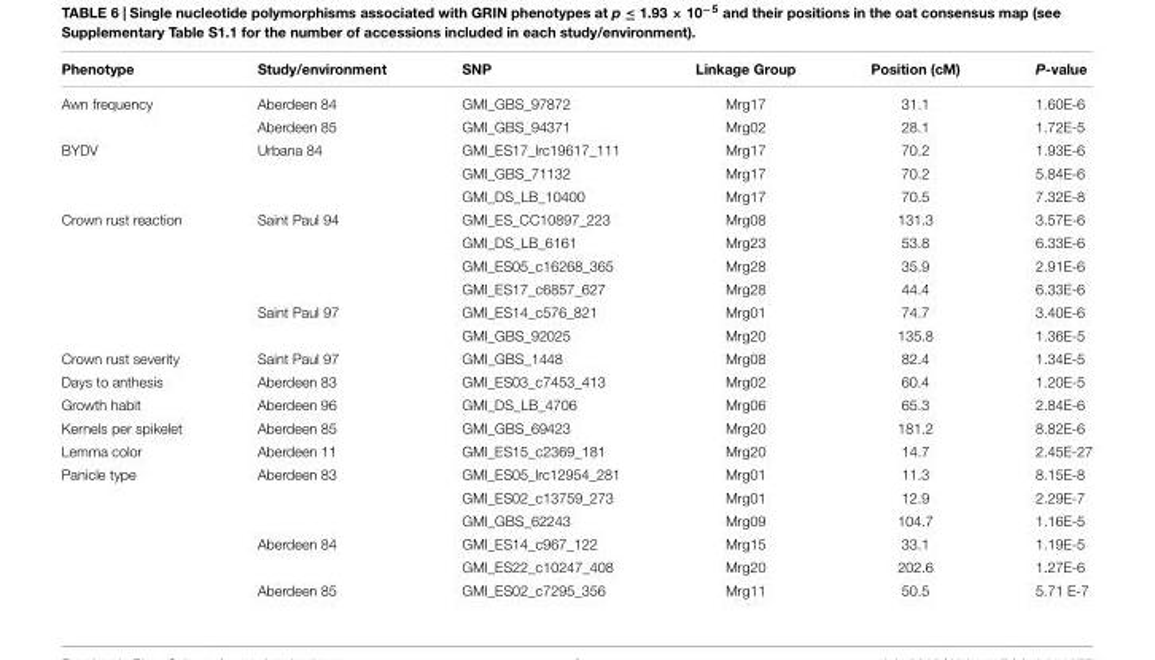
<table><thead><tr><td>Phenotype</td><td>Study/environment</td><td>SNP</td><td>Linkage Group</td><td>Position (cM)</td><td>P-value</td></tr></thead><tbody><tr><td rowspan="2">Awn frequency</td><td>Aberdeen 84</td><td>GMI_GBS_97872</td><td>Mrg17</td><td>31.1</td><td>1.60E-6</td></tr><tr><td>Aberdeen 85</td><td>GMI_GBS_94371</td><td>Mrg02</td><td>28.1</td><td>1.72E-5</td></tr><tr><td rowspan="3">BYDV</td><td>Urbana 84</td><td>GMI_ES17_lrc19617_111</td><td>Mrg17</td><td>70.2</td><td>1.93E-6</td></tr><tr><td></td><td>GMI_GBS_71132</td><td>Mrg17</td><td>70.2</td><td>5.84E-6</td></tr><tr><td></td><td>GMI_DS_LB_10400</td><td>Mrg17</td><td>70.5</td><td>7.32E-8</td></tr><tr><td rowspan="6">Crown rust reaction</td><td>Saint Paul 94</td><td>GMI_ES_CC10897_223</td><td>Mrg08</td><td>131.3</td><td>3.57E-6</td></tr><tr><td></td><td>GMI_DS_LB_6161</td><td>Mrg23</td><td>53.8</td><td>6.33E-6</td></tr><tr><td></td><td>GMI_ES05_c16268_365</td><td>Mrg28</td><td>35.9</td><td>2.91E-6</td></tr><tr><td></td><td>GMI_ES17_c6857_627</td><td>Mrg28</td><td>44.4</td><td>6.33E-6</td></tr><tr><td>Saint Paul 97</td><td>GMI_ES14_c576_821</td><td>Mrg01</td><td>74.7</td><td>3.40E-6</td></tr><tr><td></td><td>GMI_GBS_92025</td><td>Mrg20</td><td>135.8</td><td>1.36E-5</td></tr><tr><td>Crown rust severity</td><td>Saint Paul 97</td><td>GMI_GBS_1448</td><td>Mrg08</td><td>82.4</td><td>1.34E-5</td></tr><tr><td>Days to anthesis</td><td>Aberdeen 83</td><td>GMI_ES03_c7453_413</td><td>Mrg02</td><td>60.4</td><td>1.20E-5</td></tr><tr><td>Growth habit</td><td>Aberdeen 96</td><td>GMI_DS_LB_4706</td><td>Mrg06</td><td>65.3</td><td>2.84E-6</td></tr><tr><td>Kernels per spikelet</td><td>Aberdeen 85</td><td>GMI_GBS_69423</td><td>Mrg20</td><td>181.2</td><td>8.82E-6</td></tr><tr><td>Lemma color</td><td>Aberdeen 11</td><td>GMI_ES15_c2369_181</td><td>Mrg20</td><td>14.7</td><td>2.45E-27</td></tr><tr><td rowspan="6">Panicle type</td><td>Aberdeen 83</td><td>GMI_ES05_lrc12954_281</td><td>Mrg01</td><td>11.3</td><td>8.15E-8</td></tr><tr><td></td><td>GMI_ES02_c13759_273</td><td>Mrg01</td><td>12.9</td><td>2.29E-7</td></tr><tr><td></td><td>GMI_GBS_62243</td><td>Mrg09</td><td>104.7</td><td>1.16E-5</td></tr><tr><td>Aberdeen 84</td><td>GMI_ES14_c967_122</td><td>Mrg15</td><td>33.1</td><td>1.19E-5</td></tr><tr><td></td><td>GMI_ES22_c10247_408</td><td>Mrg20</td><td>202.6</td><td>1.27E-6</td></tr><tr><td>Aberdeen 85</td><td>GMI_ES02_c7295_356</td><td>Mrg11</td><td>50.5</td><td>5.71 E-7</td></tr></tbody></table>